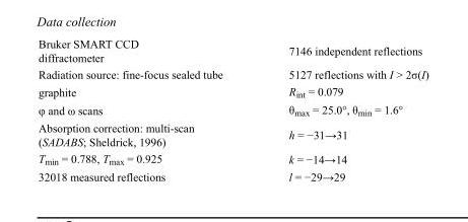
<table><tbody><tr><td>Bruker SMART CCD diffractometer</td><td>7146 independent reflections</td></tr><tr><td>Radiation source: fine-focus sealed tube</td><td>5127 reflections with I &gt; 2σ(I)</td></tr><tr><td>graphite</td><td>R<sub>int</sub> = 0.079</td></tr><tr><td>φ and ω scans</td><td>θ<sub>max</sub> = 25.0°, θ<sub>min</sub> = 1.6°</td></tr><tr><td>Absorption correction: multi-scan (SADABS; Sheldrick, 1996)</td><td>h = −31→31</td></tr><tr><td>T<sub>min</sub> = 0.788, T<sub>max</sub> = 0.925</td><td>k = −14→14</td></tr><tr><td>32018 measured reflections</td><td>l = −29→29</td></tr></tbody></table>